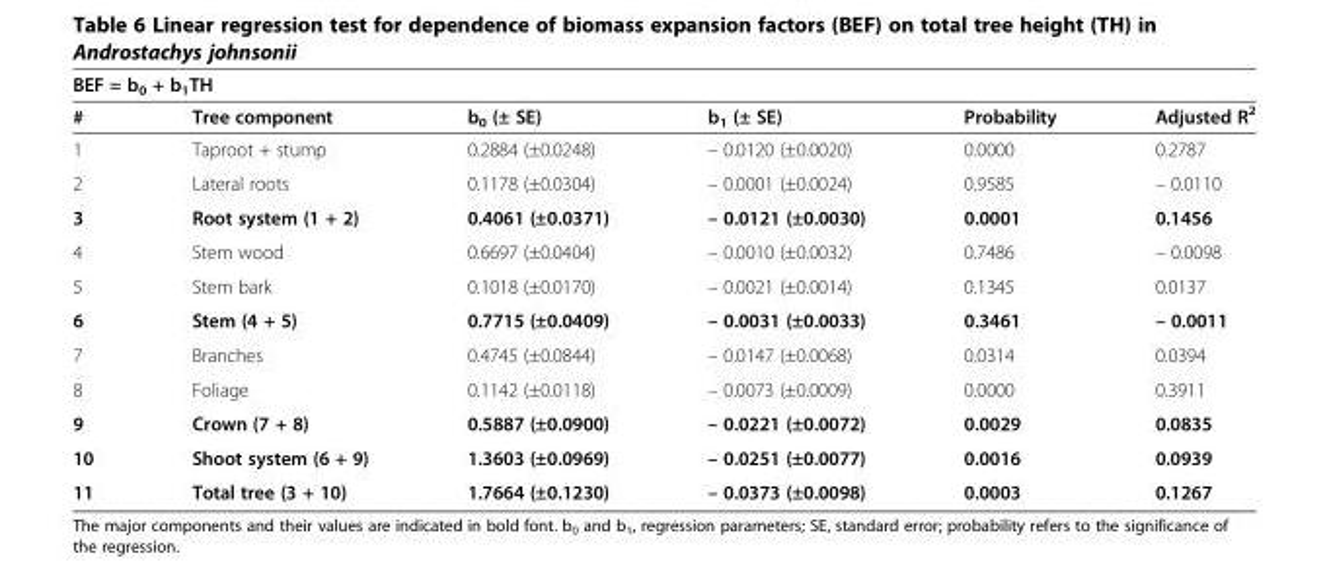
<table><thead><tr><td colspan="6">BEF = b<sub>0</sub> + b<sub>1</sub>TH</td></tr><tr><td>#</td><td>Tree component</td><td>b<sub>0</sub> (± SE)</td><td>b<sub>1</sub> (± SE)</td><td>Probability</td><td>Adjusted R<sup>2</sup></td></tr></thead><tbody><tr><td>1</td><td>Taproot + stump</td><td>0.2884 (±0.0248)</td><td>– 0.0120 (±0.0020)</td><td>0.0000</td><td>0.2787</td></tr><tr><td>2</td><td>Lateral roots</td><td>0.1178 (±0.0304)</td><td>– 0.0001 (±0.0024)</td><td>0.9585</td><td>– 0.0110</td></tr><tr><td>3</td><td>Root system (1 + 2)</td><td>0.4061 (±0.0371)</td><td>– 0.0121 (±0.0030)</td><td>0.0001</td><td>0.1456</td></tr><tr><td>4</td><td>Stem wood</td><td>0.6697 (±0.0404)</td><td>– 0.0010 (±0.0032)</td><td>0.7486</td><td>– 0.0098</td></tr><tr><td>5</td><td>Stem bark</td><td>0.1018 (±0.0170)</td><td>– 0.0021 (±0.0014)</td><td>0.1345</td><td>0.0137</td></tr><tr><td>6</td><td>Stem (4 + 5)</td><td>0.7715 (±0.0409)</td><td>– 0.0031 (±0.0033)</td><td>0.3461</td><td>– 0.0011</td></tr><tr><td>7</td><td>Branches</td><td>0.4745 (±0.0844)</td><td>– 0.0147 (±0.0068)</td><td>0.0314</td><td>0.0394</td></tr><tr><td>8</td><td>Foliage</td><td>0.1142 (±0.0118)</td><td>– 0.0073 (±0.0009)</td><td>0.0000</td><td>0.3911</td></tr><tr><td>9</td><td>Crown (7 + 8)</td><td>0.5887 (±0.0900)</td><td>– 0.0221 (±0.0072)</td><td>0.0029</td><td>0.0835</td></tr><tr><td>10</td><td>Shoot system (6 + 9)</td><td>1.3603 (±0.0969)</td><td>– 0.0251 (±0.0077)</td><td>0.0016</td><td>0.0939</td></tr><tr><td>11</td><td>Total tree (3 + 10)</td><td>1.7664 (±0.1230)</td><td>– 0.0373 (±0.0098)</td><td>0.0003</td><td>0.1267</td></tr></tbody></table>